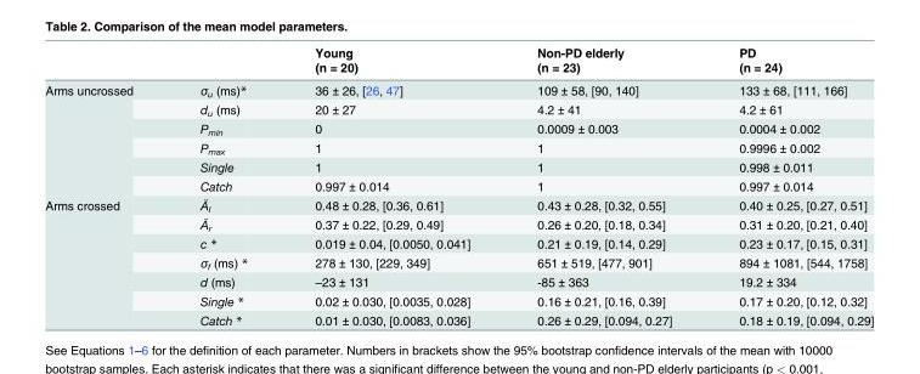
<table><thead><tr><td rowspan="2"></td><td rowspan="2"></td><td rowspan="2">Young (n = 20)</td><td rowspan="2">Non-PD elderly (n = 23)</td><td rowspan="2">PD (n = 24)</td></tr><tr></tr></thead><tbody><tr><td rowspan="6">Arms uncrossed</td><td>σ<sub>u</sub> (ms)*</td><td>36 ± 26, [26, 47]</td><td>109 ± 58, [90, 140]</td><td>133 ± 68, [111, 166]</td></tr><tr><td>d<sub>u</sub> (ms)</td><td>20 ± 27</td><td>4.2 ± 41</td><td>4.2 ± 61</td></tr><tr><td>P<sub>min</sub></td><td>0</td><td>0.0009 ± 0.003</td><td>0.0004 ± 0.002</td></tr><tr><td>P<sub>max</sub></td><td>1</td><td>1</td><td>0.9996 ± 0.002</td></tr><tr><td>Single</td><td>1</td><td>1</td><td>0.998 ± 0.011</td></tr><tr><td>Catch</td><td>0.997 ± 0.014</td><td>1</td><td>0.997 ± 0.014</td></tr><tr><td rowspan="7">Arms crossed</td><td>Ã<sub>l</sub></td><td>0.48 ± 0.28, [0.36, 0.61]</td><td>0.43 ± 0.28, [0.32, 0.55]</td><td>0.40 ± 0.25, [0.27, 0.51]</td></tr><tr><td>Ã<sub>r</sub></td><td>0.37 ± 0.22, [0.29, 0.49]</td><td>0.26 ± 0.20, [0.18, 0.34]</td><td>0.31 ± 0.20, [0.21, 0.40]</td></tr><tr><td>c *</td><td>0.019 ± 0.04, [0.0050, 0.041]</td><td>0.21 ± 0.19, [0.14, 0.29]</td><td>0.23 ± 0.17, [0.15, 0.31]</td></tr><tr><td>σ<sub>f</sub> (ms) *</td><td>278 ± 130, [229, 349]</td><td>651 ± 519, [477, 901]</td><td>894 ± 1081, [544, 1758]</td></tr><tr><td>d (ms)</td><td>–23 ± 131</td><td>-85 ± 363</td><td>19.2 ± 334</td></tr><tr><td>Single *</td><td>0.02 ± 0.030, [0.0035, 0.028]</td><td>0.16 ± 0.21, [0.16, 0.39]</td><td>0.17 ± 0.20, [0.12, 0.32]</td></tr><tr><td>Catch *</td><td>0.01 ± 0.030, [0.0083, 0.036]</td><td>0.26 ± 0.29, [0.094, 0.27]</td><td>0.18 ± 0.19, [0.094, 0.29]</td></tr></tbody></table>